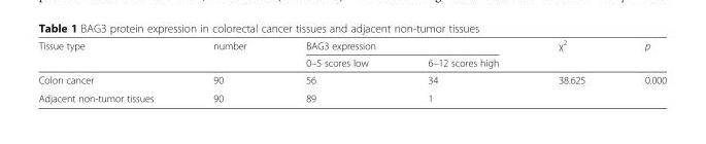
<table><thead><tr><td rowspan="2">Tissue type</td><td rowspan="2">number</td><td colspan="2">BAG3 expression</td><td rowspan="2">χ<sup>2</sup></td><td rowspan="2">p</td></tr><tr><td>0–5 scores low</td><td>6–12 scores high</td></tr></thead><tbody><tr><td>Colon cancer</td><td>90</td><td>56</td><td>34</td><td>38.625</td><td rowspan="2">0.000</td></tr><tr><td>Adjacent non-tumor tissues</td><td>90</td><td>89</td><td>1</td><td></td></tr></tbody></table>